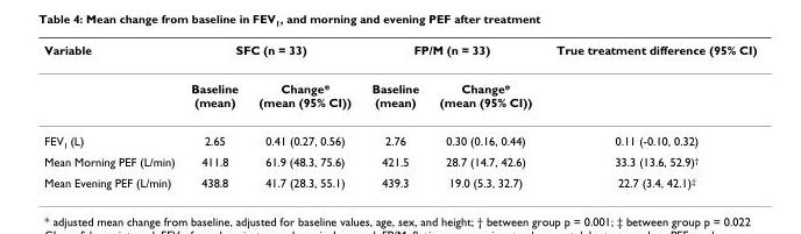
<table><thead><tr><td rowspan="2">Variable</td><td colspan="2">SFC (n = 33)</td><td colspan="2">FP/M (n = 33)</td><td rowspan="2">True treatment difference (95% CI)</td></tr><tr><td>Baseline (mean)</td><td>Change* (mean (95% CI))</td><td>Baseline (mean)</td><td>Change* (mean (95% CI))</td></tr></thead><tbody><tr><td>FEV<sub>1</sub> (L)</td><td>2.65</td><td>0.41 (0.27, 0.56)</td><td>2.76</td><td>0.30 (0.16, 0.44)</td><td>0.11 (-0.10, 0.32)</td></tr><tr><td>Mean Morning PEF (L/min)</td><td>411.8</td><td>61.9 (48.3, 75.6)</td><td>421.5</td><td>28.7 (14.7, 42.6)</td><td>33.3 (13.6, 52.9)<sup>†</sup></td></tr><tr><td>Mean Evening PEF (L/min)</td><td>438.8</td><td>41.7 (28.3, 55.1)</td><td>439.3</td><td>19.0 (5.3, 32.7)</td><td>22.7 (3.4, 42.1)<sup>‡</sup></td></tr></tbody></table>